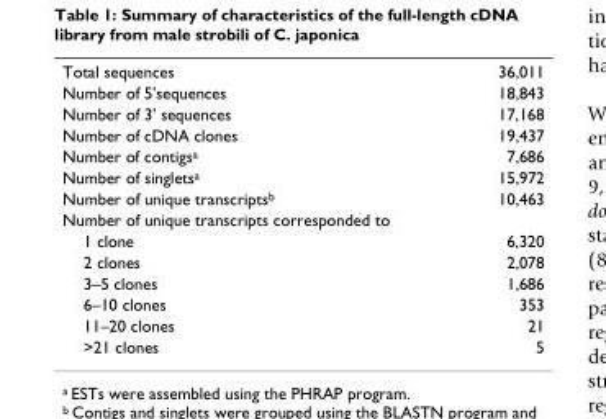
<table><tbody><tr><td>Total sequences</td><td>36,011</td></tr><tr><td>Number of 5&#x27;sequences</td><td>18,843</td></tr><tr><td>Number of 3&#x27; sequences</td><td>17,168</td></tr><tr><td>Number of cDNA clones</td><td>19,437</td></tr><tr><td>Number of contigs<sup>a</sup></td><td>7,686</td></tr><tr><td>Number of singlets<sup>a</sup></td><td>15,972</td></tr><tr><td>Number of unique transcripts<sup>b</sup></td><td>10,463</td></tr><tr><td colspan="2">Number of unique transcripts corresponded to</td></tr><tr><td>1 clone</td><td>6,320</td></tr><tr><td>2 clones</td><td>2,078</td></tr><tr><td>3–5 clones</td><td>1,686</td></tr><tr><td>6–10 clones</td><td>353</td></tr><tr><td>11–20 clones</td><td>21</td></tr><tr><td>&gt;21 clones</td><td>5</td></tr></tbody></table>